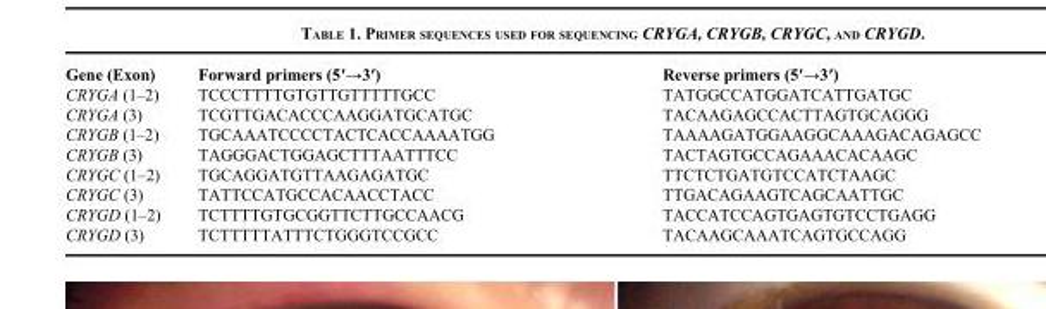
<table><thead><tr><td>Gene (Exon)</td><td>Forward primers (5′→3′)</td><td>Reverse primers (5′→3′)</td></tr></thead><tbody><tr><td>CRYGA (1–2)</td><td>TCCCTTTTGTGTTGTTTTTGCC</td><td>TATGGCCATGGATCATTGATGC</td></tr><tr><td>CRYGA (3)</td><td>TCGTTGACACCCAAGGATGCATGC</td><td>TACAAGAGCCACTTAGTGCAGGG</td></tr><tr><td>CRYGB (1–2)</td><td>TGCAAATCCCCTACTCACCAAAATGG</td><td>TAAAAGATGGAAGGCAAAGACAGAGCC</td></tr><tr><td>CRYGB (3)</td><td>TAGGGACTGGAGCTTTAATTTCC</td><td>TACTAGTGCCAGAAACACAAGC</td></tr><tr><td>CRYGC (1–2)</td><td>TGCAGGATGTTAAGAGATGC</td><td>TTCTCTGATGTCCATCTAAGC</td></tr><tr><td>CRYGC (3)</td><td>TATTCCATGCCACAACCTACC</td><td>TTGACAGAAGTCAGCAATTGC</td></tr><tr><td>CRYGD (1–2)</td><td>TCTTTTGTGCGGTTCTTGCCAACG</td><td>TACCATCCAGTGAGTGTCCTGAGG</td></tr><tr><td>CRYGD (3)</td><td>TCTTTTTATTTCTGGGTCCGCC</td><td>TACAAGCAAATCAGTGCCAGG</td></tr></tbody></table>